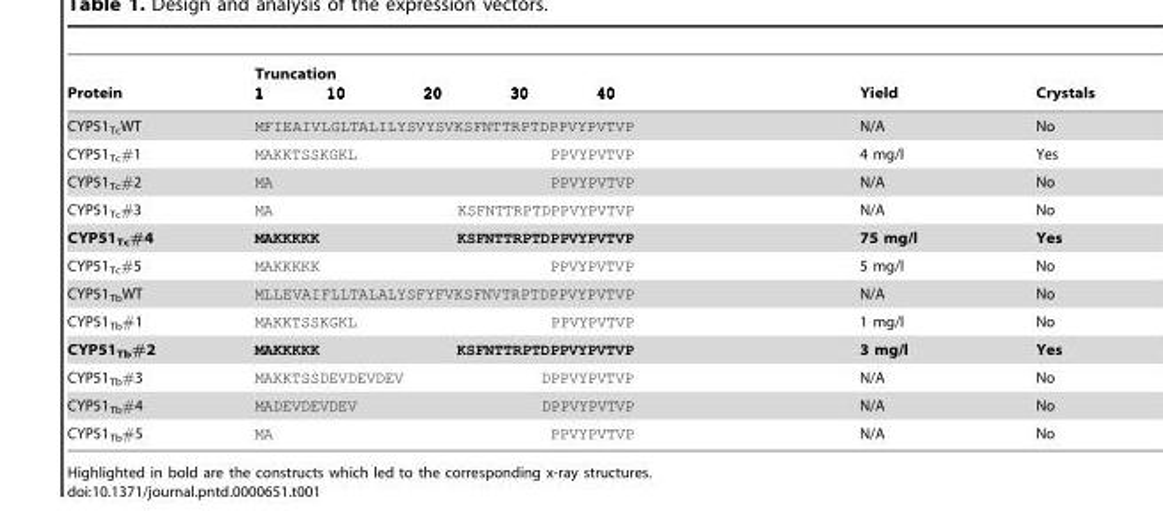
<table><thead><tr><td>Protein</td><td>Truncation 1 10 20 30 40</td><td>Yield</td><td>Crystals</td></tr></thead><tbody><tr><td>CYP51<sub>Tc</sub>WT</td><td>MFIEAIVLGLTALILYSVYSVKSFNTTRPTDPPVYPVTVP</td><td>N/A</td><td>No</td></tr><tr><td>CYP51<sub>Tc</sub>#1</td><td>MAKKTSSKGKL PPVYPVTVP</td><td>4 mg/l</td><td>Yes</td></tr><tr><td>CYP51<sub>Tc</sub>#2</td><td>MA PPVYPVTVP</td><td>N/A</td><td>No</td></tr><tr><td>CYP51<sub>Tc</sub>#3</td><td>MA KSFNTTRPTDPPVYPVTVP</td><td>N/A</td><td>No</td></tr><tr><td>CYP51<sub>Tc</sub>#4</td><td>MAKKKKK KSFNTTRPTDPPVYPVTVP</td><td>75 mg/l</td><td>Yes</td></tr><tr><td>CYP51<sub>Tc</sub>#5</td><td>MAKKKKK PPVYPVTVP</td><td>5 mg/l</td><td>No</td></tr><tr><td>CYP51<sub>Tb</sub>WT</td><td>MLLEVAIFLLTALALYSFYFVKSFNVTRPTDPPVYPVTVP</td><td>N/A</td><td>No</td></tr><tr><td>CYP51<sub>Tb</sub>#1</td><td>MAKKTSSKGKL PPVYPVTVP</td><td>1 mg/l</td><td>No</td></tr><tr><td>CYP51<sub>Tb</sub>#2</td><td>MAKKKKK KSFNTTRPTDPPVYPVTVP</td><td>3 mg/l</td><td>Yes</td></tr><tr><td>CYP51<sub>Tb</sub>#3</td><td>MAKKTSSDEVDEVDEV DPPVYPVTVP</td><td>N/A</td><td>No</td></tr><tr><td>CYP51<sub>Tb</sub>#4</td><td>MADEVDEVDEV DPPVYPVTVP</td><td>N/A</td><td>No</td></tr><tr><td>CYP51<sub>Tb</sub>#5</td><td>MA PPVYPVTVP</td><td>N/A</td><td>No</td></tr></tbody></table>